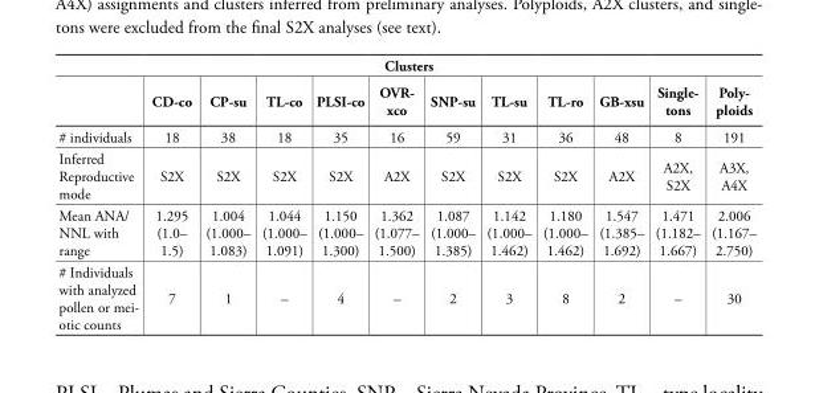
<table><thead><tr><td colspan="12">Clusters</td></tr><tr><td></td><td>CD-co</td><td>CP-su</td><td>TL-co</td><td>PLSI-co</td><td>OVR- xco</td><td>SNP-su</td><td>TL-su</td><td>TL-ro</td><td>GB-xsu</td><td>Single- tons</td><td>Poly- ploids</td></tr></thead><tbody><tr><td># individuals</td><td>18</td><td>38</td><td>18</td><td>35</td><td>16</td><td>59</td><td>31</td><td>36</td><td>48</td><td>8</td><td>191</td></tr><tr><td>Inferred Reproductive mode</td><td>S2X</td><td>S2X</td><td>S2X</td><td>S2X</td><td>A2X</td><td>S2X</td><td>S2X</td><td>S2X</td><td>A2X</td><td>A2X, S2X</td><td>A3X, A4X</td></tr><tr><td>Mean ANA/ NNL with range</td><td>1.295 (1.0– 1.5)</td><td>1.004 (1.000– 1.083)</td><td>1.044 (1.000– 1.091)</td><td>1.150 (1.000– 1.300)</td><td>1.362 (1.077– 1.500)</td><td>1.087 (1.000– 1.385)</td><td>1.142 (1.000– 1.462)</td><td>1.180 (1.000– 1.462)</td><td>1.547 (1.385– 1.692)</td><td>1.471 (1.182– 1.667)</td><td>2.006 (1.167– 2.750)</td></tr><tr><td># Individuals with analyzed pollen or mei- otic counts</td><td>7</td><td>1</td><td>–</td><td>4</td><td>–</td><td>2</td><td>3</td><td>8</td><td>2</td><td>–</td><td>30</td></tr></tbody></table>